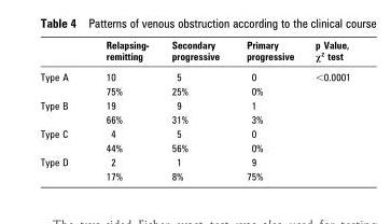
<table><thead><tr><td></td><td>Relapsing- remitting</td><td>Secondary progressive</td><td>Primary progressive</td><td>p Value, χ<sup>2</sup> test</td></tr></thead><tbody><tr><td rowspan="2">Type A</td><td>10</td><td>5</td><td>0</td><td rowspan="8">&lt;0.0001</td></tr><tr><td>75%</td><td>25%</td><td>0%</td></tr><tr><td rowspan="2">Type B</td><td>19</td><td>9</td><td>1</td></tr><tr><td>66%</td><td>31%</td><td>3%</td></tr><tr><td rowspan="2">Type C</td><td>4</td><td>5</td><td>0</td></tr><tr><td>44%</td><td>56%</td><td>0%</td></tr><tr><td rowspan="2">Type D</td><td>2</td><td>1</td><td>9</td></tr><tr><td>17%</td><td>8%</td><td>75%</td></tr></tbody></table>